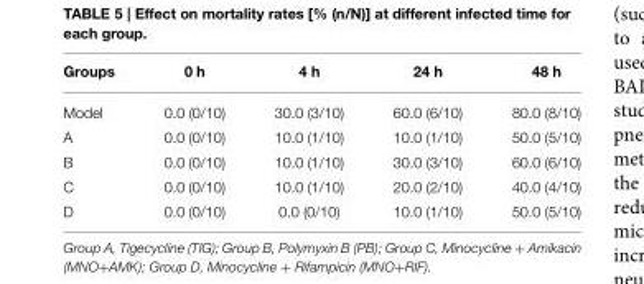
<table><thead><tr><td>Groups</td><td>0 h</td><td>4 h</td><td>24 h</td><td>48 h</td></tr></thead><tbody><tr><td>Model</td><td>0.0 (0/10)</td><td>30.0 (3/10)</td><td>60.0 (6/10)</td><td>80.0 (8/10)</td></tr><tr><td>A</td><td>0.0 (0/10)</td><td>10.0 (1/10)</td><td>10.0 (1/10)</td><td>50.0 (5/10)</td></tr><tr><td>B</td><td>0.0 (0/10)</td><td>10.0 (1/10)</td><td>30.0 (3/10)</td><td>60.0 (6/10)</td></tr><tr><td>C</td><td>0.0 (0/10)</td><td>10.0 (1/10)</td><td>20.0 (2/10)</td><td>40.0 (4/10)</td></tr><tr><td>D</td><td>0.0 (0/10)</td><td>0.0 (0/10)</td><td>10.0 (1/10)</td><td>50.0 (5/10)</td></tr></tbody></table>